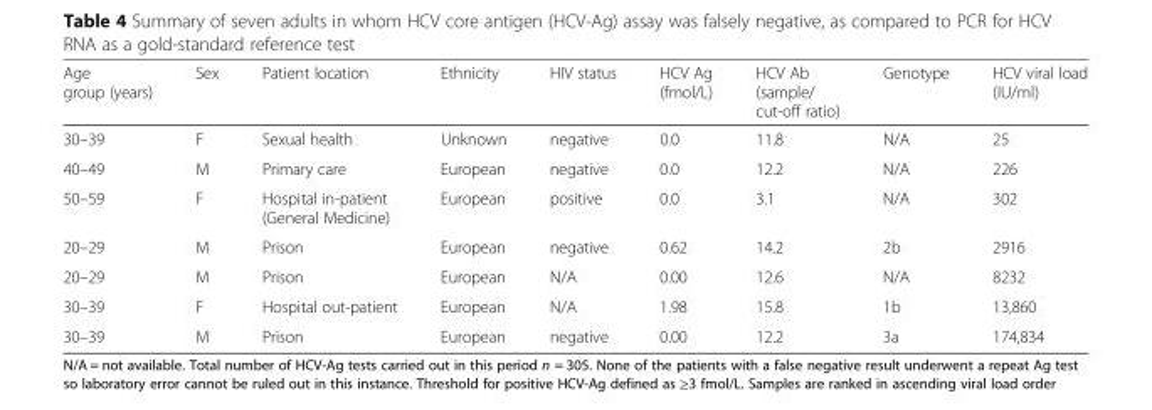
<table><thead><tr><td>Age group (years)</td><td>Sex</td><td>Patient location</td><td>Ethnicity</td><td>HIV status</td><td>HCV Ag (fmol/L)</td><td>HCV Ab (sample/ cut-off ratio)</td><td>Genotype</td><td>HCV viral load (IU/ml)</td></tr></thead><tbody><tr><td>30–39</td><td>F</td><td>Sexual health</td><td>Unknown</td><td>negative</td><td>0.0</td><td>11.8</td><td>N/A</td><td>25</td></tr><tr><td>40–49</td><td>M</td><td>Primary care</td><td>European</td><td>negative</td><td>0.0</td><td>12.2</td><td>N/A</td><td>226</td></tr><tr><td>50–59</td><td>F</td><td>Hospital in-patient (General Medicine)</td><td>European</td><td>positive</td><td>0.0</td><td>3.1</td><td>N/A</td><td>302</td></tr><tr><td>20–29</td><td>M</td><td>Prison</td><td>European</td><td>negative</td><td>0.62</td><td>14.2</td><td>2b</td><td>2916</td></tr><tr><td>20–29</td><td>M</td><td>Prison</td><td>European</td><td>N/A</td><td>0.00</td><td>12.6</td><td>N/A</td><td>8232</td></tr><tr><td>30–39</td><td>F</td><td>Hospital out-patient</td><td>European</td><td>N/A</td><td>1.98</td><td>15.8</td><td>1b</td><td>13,860</td></tr><tr><td>30–39</td><td>M</td><td>Prison</td><td>European</td><td>negative</td><td>0.00</td><td>12.2</td><td>3a</td><td>174,834</td></tr></tbody></table>